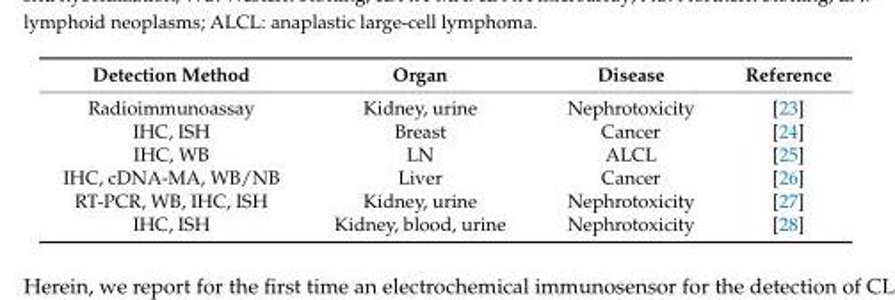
<table><thead><tr><td>Detection Method</td><td>Organ</td><td>Disease</td><td>Reference</td></tr></thead><tbody><tr><td>Radioimmunoassay</td><td>Kidney, urine</td><td>Nephrotoxicity</td><td>[23]</td></tr><tr><td>IHC, ISH</td><td>Breast</td><td>Cancer</td><td>[24]</td></tr><tr><td>IHC, WB</td><td>LN</td><td>ALCL</td><td>[25]</td></tr><tr><td>IHC, cDNA-MA, WB/NB</td><td>Liver</td><td>Cancer</td><td>[26]</td></tr><tr><td>RT-PCR, WB, IHC, ISH</td><td>Kidney, urine</td><td>Nephrotoxicity</td><td>[27]</td></tr><tr><td>IHC, ISH</td><td>Kidney, blood, urine</td><td>Nephrotoxicity</td><td>[28]</td></tr></tbody></table>